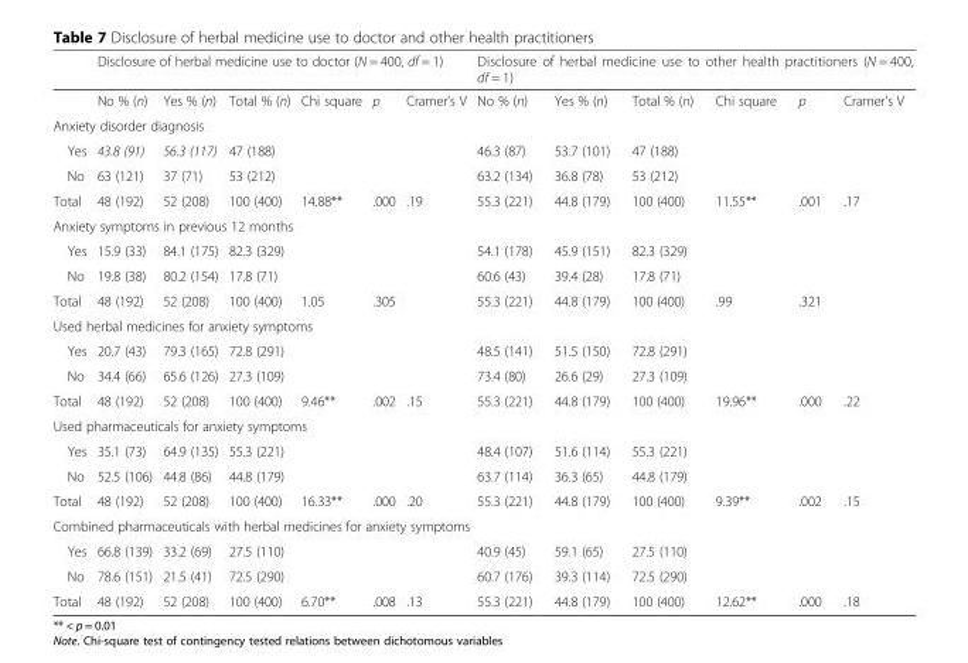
<table><thead><tr><td rowspan="2"></td><td colspan="6">Disclosure of herbal medicine use to doctor (N = 400, df = 1)</td><td colspan="6">Disclosure of herbal medicine use to other health practitioners (N = 400, df = 1)</td></tr><tr><td>No % (n)</td><td>Yes % (n)</td><td>Total % (n)</td><td>Chi square</td><td>p</td><td>Cramer’s V</td><td>No % (n)</td><td>Yes % (n)</td><td>Total % (n)</td><td>Chi square</td><td>p</td><td>Cramer’s V</td></tr></thead><tbody><tr><td colspan="13">Anxiety disorder diagnosis</td></tr><tr><td>Yes</td><td>43.8 (91)</td><td>56.3 (117)</td><td>47 (188)</td><td></td><td></td><td></td><td>46.3 (87)</td><td>53.7 (101)</td><td>47 (188)</td><td></td><td></td><td></td></tr><tr><td>No</td><td>63 (121)</td><td>37 (71)</td><td>53 (212)</td><td></td><td></td><td></td><td>63.2 (134)</td><td>36.8 (78)</td><td>53 (212)</td><td></td><td></td><td></td></tr><tr><td>Total</td><td>48 (192)</td><td>52 (208)</td><td>100 (400)</td><td>14.88**</td><td>.000</td><td>.19</td><td>55.3 (221)</td><td>44.8 (179)</td><td>100 (400)</td><td>11.55**</td><td>.001</td><td>.17</td></tr><tr><td colspan="13">Anxiety symptoms in previous 12 months</td></tr><tr><td>Yes</td><td>15.9 (33)</td><td>84.1 (175)</td><td>82.3 (329)</td><td></td><td></td><td></td><td>54.1 (178)</td><td>45.9 (151)</td><td>82.3 (329)</td><td></td><td></td><td></td></tr><tr><td>No</td><td>19.8 (38)</td><td>80.2 (154)</td><td>17.8 (71)</td><td></td><td></td><td></td><td>60.6 (43)</td><td>39.4 (28)</td><td>17.8 (71)</td><td></td><td></td><td></td></tr><tr><td>Total</td><td>48 (192)</td><td>52 (208)</td><td>100 (400)</td><td>1.05</td><td>.305</td><td></td><td>55.3 (221)</td><td>44.8 (179)</td><td>100 (400)</td><td>.99</td><td>.321</td><td></td></tr><tr><td colspan="13">Used herbal medicines for anxiety symptoms</td></tr><tr><td>Yes</td><td>20.7 (43)</td><td>79.3 (165)</td><td>72.8 (291)</td><td></td><td></td><td></td><td>48.5 (141)</td><td>51.5 (150)</td><td>72.8 (291)</td><td></td><td></td><td></td></tr><tr><td>No</td><td>34.4 (66)</td><td>65.6 (126)</td><td>27.3 (109)</td><td></td><td></td><td></td><td>73.4 (80)</td><td>26.6 (29)</td><td>27.3 (109)</td><td></td><td></td><td></td></tr><tr><td>Total</td><td>48 (192)</td><td>52 (208)</td><td>100 (400)</td><td>9.46**</td><td>.002</td><td>.15</td><td>55.3 (221)</td><td>44.8 (179)</td><td>100 (400)</td><td>19.96**</td><td>.000</td><td>.22</td></tr><tr><td colspan="13">Used pharmaceuticals for anxiety symptoms</td></tr><tr><td>Yes</td><td>35.1 (73)</td><td>64.9 (135)</td><td>55.3 (221)</td><td></td><td></td><td></td><td>48.4 (107)</td><td>51.6 (114)</td><td>55.3 (221)</td><td></td><td></td><td></td></tr><tr><td>No</td><td>52.5 (106)</td><td>44.8 (86)</td><td>44.8 (179)</td><td></td><td></td><td></td><td>63.7 (114)</td><td>36.3 (65)</td><td>44.8 (179)</td><td></td><td></td><td></td></tr><tr><td>Total</td><td>48 (192)</td><td>52 (208)</td><td>100 (400)</td><td>16.33**</td><td>.000</td><td>.20</td><td>55.3 (221)</td><td>44.8 (179)</td><td>100 (400)</td><td>9.39**</td><td>.002</td><td>.15</td></tr><tr><td colspan="13">Combined pharmaceuticals with herbal medicines for anxiety symptoms</td></tr><tr><td>Yes</td><td>66.8 (139)</td><td>33.2 (69)</td><td>27.5 (110)</td><td></td><td></td><td></td><td>40.9 (45)</td><td>59.1 (65)</td><td>27.5 (110)</td><td></td><td></td><td></td></tr><tr><td>No</td><td>78.6 (151)</td><td>21.5 (41)</td><td>72.5 (290)</td><td></td><td></td><td></td><td>60.7 (176)</td><td>39.3 (114)</td><td>72.5 (290)</td><td></td><td></td><td></td></tr><tr><td>Total</td><td>48 (192)</td><td>52 (208)</td><td>100 (400)</td><td>6.70**</td><td>.008</td><td>.13</td><td>55.3 (221)</td><td>44.8 (179)</td><td>100 (400)</td><td>12.62**</td><td>.000</td><td>.18</td></tr></tbody></table>